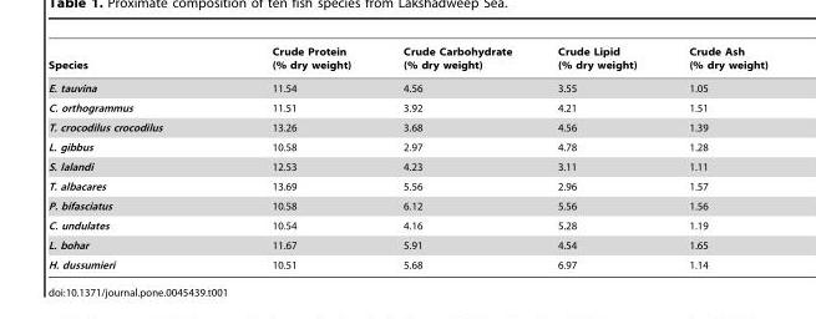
<table><thead><tr><td>Species</td><td>Crude Protein (% dry weight)</td><td>Crude Carbohydrate (% dry weight)</td><td>Crude Lipid (% dry weight)</td><td>Crude Ash (% dry weight)</td></tr></thead><tbody><tr><td>E. tauvina</td><td>11.54</td><td>4.56</td><td>3.55</td><td>1.05</td></tr><tr><td>C. orthogrammus</td><td>11.51</td><td>3.92</td><td>4.21</td><td>1.51</td></tr><tr><td>T. crocodilus crocodilus</td><td>13.26</td><td>3.68</td><td>4.56</td><td>1.39</td></tr><tr><td>L. gibbus</td><td>10.58</td><td>2.97</td><td>4.78</td><td>1.28</td></tr><tr><td>S. lalandi</td><td>12.53</td><td>4.23</td><td>3.11</td><td>1.11</td></tr><tr><td>T. albacares</td><td>13.69</td><td>5.56</td><td>2.96</td><td>1.57</td></tr><tr><td>P. bifasciatus</td><td>10.58</td><td>6.12</td><td>5.56</td><td>1.56</td></tr><tr><td>C. undulates</td><td>10.54</td><td>4.16</td><td>5.28</td><td>1.19</td></tr><tr><td>L. bohar</td><td>11.67</td><td>5.91</td><td>4.54</td><td>1.65</td></tr><tr><td>H. dussumieri</td><td>10.51</td><td>5.68</td><td>6.97</td><td>1.14</td></tr></tbody></table>